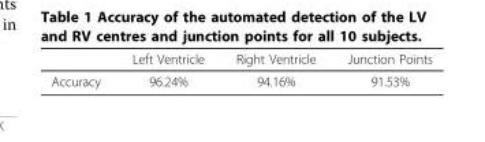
<table><thead><tr><td></td><td>Left Ventricle</td><td>Right Ventricle</td><td>Junction Points</td></tr></thead><tbody><tr><td>Accuracy</td><td>96.24%</td><td>94.16%</td><td>91.53%</td></tr></tbody></table>